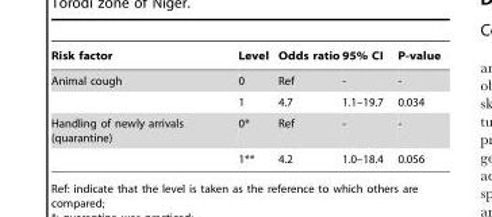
<table><thead><tr><td>Risk factor</td><td>Level</td><td>Odds ratio</td><td>95% CI</td><td>P-value</td></tr></thead><tbody><tr><td rowspan="2">Animal cough</td><td>0</td><td>Ref</td><td>-</td><td>-</td></tr><tr><td>1</td><td>4.7</td><td>1.1–19.7</td><td>0.034</td></tr><tr><td rowspan="2">Handling of newly arrivals (quarantine)</td><td>0*</td><td>Ref</td><td>-</td><td>-</td></tr><tr><td>1**</td><td>4.2</td><td>1.0–18.4</td><td>0.056</td></tr></tbody></table>